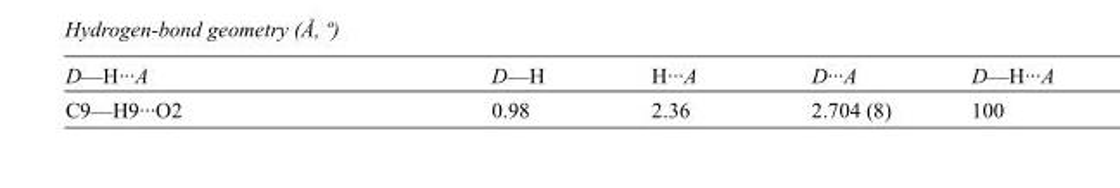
<table><tbody><tr><td>D—H···A</td><td>D—H</td><td>H···A</td><td>D···A</td><td>D—H···A</td></tr><tr><td>C9—H9···O2</td><td>0.98</td><td>2.36</td><td>2.704 (8)</td><td>100</td></tr></tbody></table>